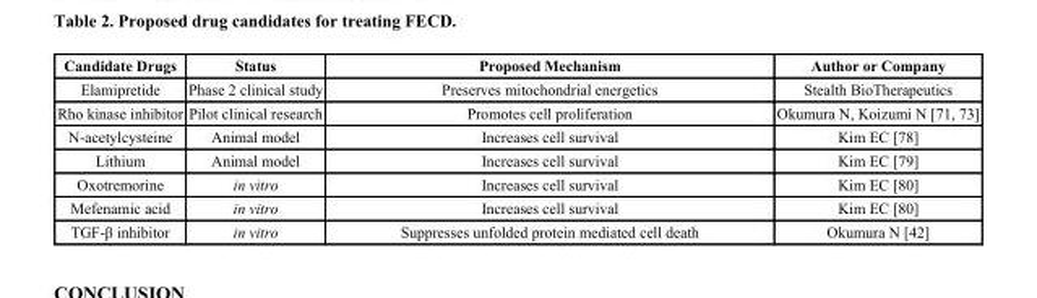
<table><thead><tr><td>Candidate Drugs</td><td>Status</td><td>Proposed Mechanism</td><td>Author or Company</td></tr></thead><tbody><tr><td>Elamipretide</td><td>Phase 2 clinical study</td><td>Preserves mitochondrial energetics</td><td>Stealth BioTherapeutics</td></tr><tr><td>Rho kinase inhibitor</td><td>Pilot clinical research</td><td>Promotes cell proliferation</td><td>Okumura N, Koizumi N [71, 73]</td></tr><tr><td>N-acetylcysteine</td><td>Animal model</td><td>Increases cell survival</td><td>Kim EC [78]</td></tr><tr><td>Lithium</td><td>Animal model</td><td>Increases cell survival</td><td>Kim EC [79]</td></tr><tr><td>Oxotremorine</td><td>in vitro</td><td>Increases cell survival</td><td>Kim EC [80]</td></tr><tr><td>Mefenamic acid</td><td>in vitro</td><td>Increases cell survival</td><td>Kim EC [80]</td></tr><tr><td>TGF-β inhibitor</td><td>in vitro</td><td>Suppresses unfolded protein mediated cell death</td><td>Okumura N [42]</td></tr></tbody></table>